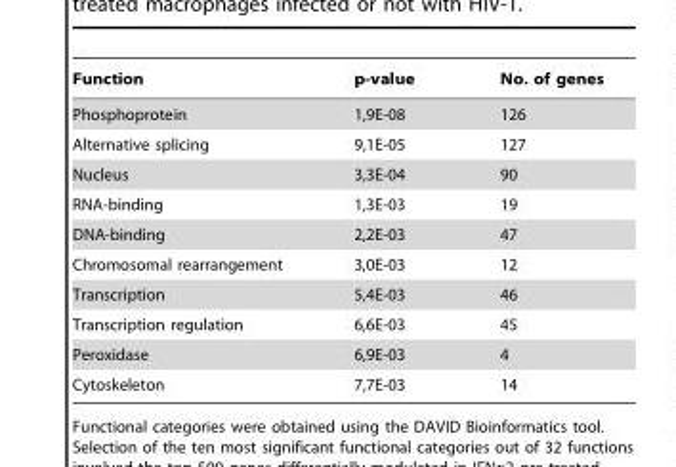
<table><thead><tr><td>Function</td><td>p-value</td><td>No. of genes</td></tr></thead><tbody><tr><td>Phosphoprotein</td><td>1,9E-08</td><td>126</td></tr><tr><td>Alternative splicing</td><td>9,1E-05</td><td>127</td></tr><tr><td>Nucleus</td><td>3,3E-04</td><td>90</td></tr><tr><td>RNA-binding</td><td>1,3E-03</td><td>19</td></tr><tr><td>DNA-binding</td><td>2,2E-03</td><td>47</td></tr><tr><td>Chromosomal rearrangement</td><td>3,0E-03</td><td>12</td></tr><tr><td>Transcription</td><td>5,4E-03</td><td>46</td></tr><tr><td>Transcription regulation</td><td>6,6E-03</td><td>45</td></tr><tr><td>Peroxidase</td><td>6,9E-03</td><td>4</td></tr><tr><td>Cytoskeleton</td><td>7,7E-03</td><td>14</td></tr></tbody></table>